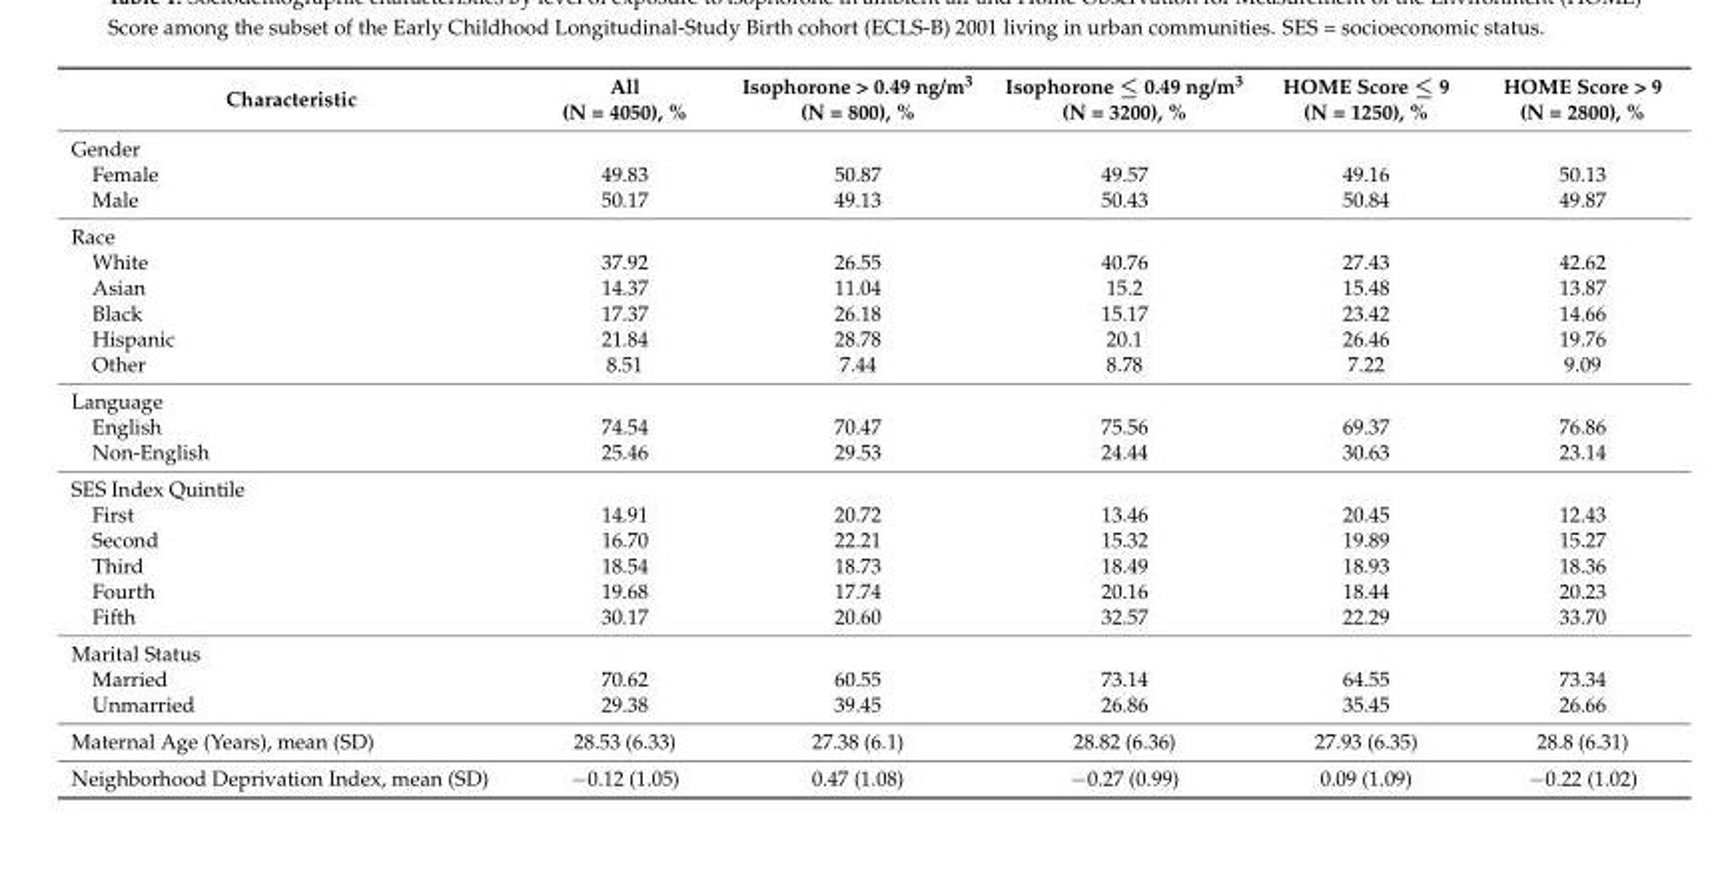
<table><thead><tr><td>Characteristic</td><td>All (N = 4050), %</td><td>Isophorone &gt; 0.49 ng/m<sup>3</sup> (N = 800), %</td><td>Isophorone ≤ 0.49 ng/m<sup>3</sup> (N = 3200), %</td><td>HOME Score ≤ 9 (N = 1250), %</td><td>HOME Score &gt; 9 (N = 2800), %</td></tr></thead><tbody><tr><td colspan="6">Gender</td></tr><tr><td>Female</td><td>49.83</td><td>50.87</td><td>49.57</td><td>49.16</td><td>50.13</td></tr><tr><td>Male</td><td>50.17</td><td>49.13</td><td>50.43</td><td>50.84</td><td>49.87</td></tr><tr><td colspan="6">Race</td></tr><tr><td>White</td><td>37.92</td><td>26.55</td><td>40.76</td><td>27.43</td><td>42.62</td></tr><tr><td>Asian</td><td>14.37</td><td>11.04</td><td>15.2</td><td>15.48</td><td>13.87</td></tr><tr><td>Black</td><td>17.37</td><td>26.18</td><td>15.17</td><td>23.42</td><td>14.66</td></tr><tr><td>Hispanic</td><td>21.84</td><td>28.78</td><td>20.1</td><td>26.46</td><td>19.76</td></tr><tr><td>Other</td><td>8.51</td><td>7.44</td><td>8.78</td><td>7.22</td><td>9.09</td></tr><tr><td colspan="6">Language</td></tr><tr><td>English</td><td>74.54</td><td>70.47</td><td>75.56</td><td>69.37</td><td>76.86</td></tr><tr><td>Non-English</td><td>25.46</td><td>29.53</td><td>24.44</td><td>30.63</td><td>23.14</td></tr><tr><td colspan="6">SES Index Quintile</td></tr><tr><td>First</td><td>14.91</td><td>20.72</td><td>13.46</td><td>20.45</td><td>12.43</td></tr><tr><td>Second</td><td>16.70</td><td>22.21</td><td>15.32</td><td>19.89</td><td>15.27</td></tr><tr><td>Third</td><td>18.54</td><td>18.73</td><td>18.49</td><td>18.93</td><td>18.36</td></tr><tr><td>Fourth</td><td>19.68</td><td>17.74</td><td>20.16</td><td>18.44</td><td>20.23</td></tr><tr><td>Fifth</td><td>30.17</td><td>20.60</td><td>32.57</td><td>22.29</td><td>33.70</td></tr><tr><td colspan="6">Marital Status</td></tr><tr><td>Married</td><td>70.62</td><td>60.55</td><td>73.14</td><td>64.55</td><td>73.34</td></tr><tr><td>Unmarried</td><td>29.38</td><td>39.45</td><td>26.86</td><td>35.45</td><td>26.66</td></tr><tr><td>Maternal Age (Years), mean (SD)</td><td>28.53 (6.33)</td><td>27.38 (6.1)</td><td>28.82 (6.36)</td><td>27.93 (6.35)</td><td>28.8 (6.31)</td></tr><tr><td>Neighborhood Deprivation Index, mean (SD)</td><td>−0.12 (1.05)</td><td>0.47 (1.08)</td><td>−0.27 (0.99)</td><td>0.09 (1.09)</td><td>−0.22 (1.02)</td></tr></tbody></table>